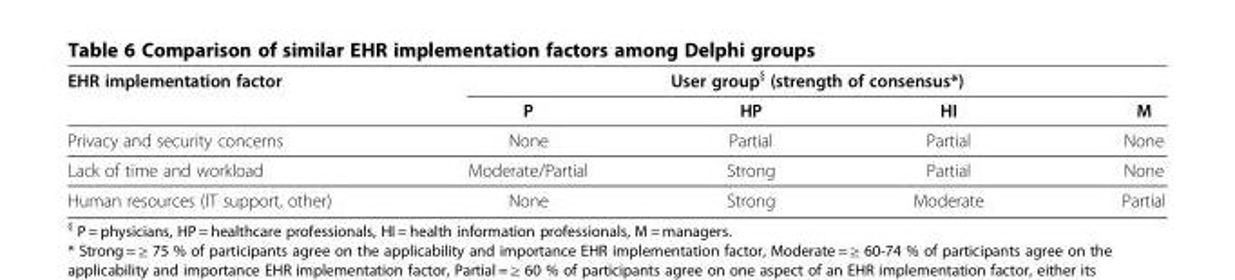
<table><thead><tr><td rowspan="2">EHR implementation factor</td><td colspan="4">User group<sup>§</sup> (strength of consensus*)</td></tr><tr><td>P</td><td>HP</td><td>HI</td><td>M</td></tr></thead><tbody><tr><td>Privacy and security concerns</td><td>None</td><td>Partial</td><td>Partial</td><td>None</td></tr><tr><td>Lack of time and workload</td><td>Moderate/Partial</td><td>Strong</td><td>Partial</td><td>None</td></tr><tr><td>Human resources (IT support, other)</td><td>None</td><td>Strong</td><td>Moderate</td><td>Partial</td></tr></tbody></table>